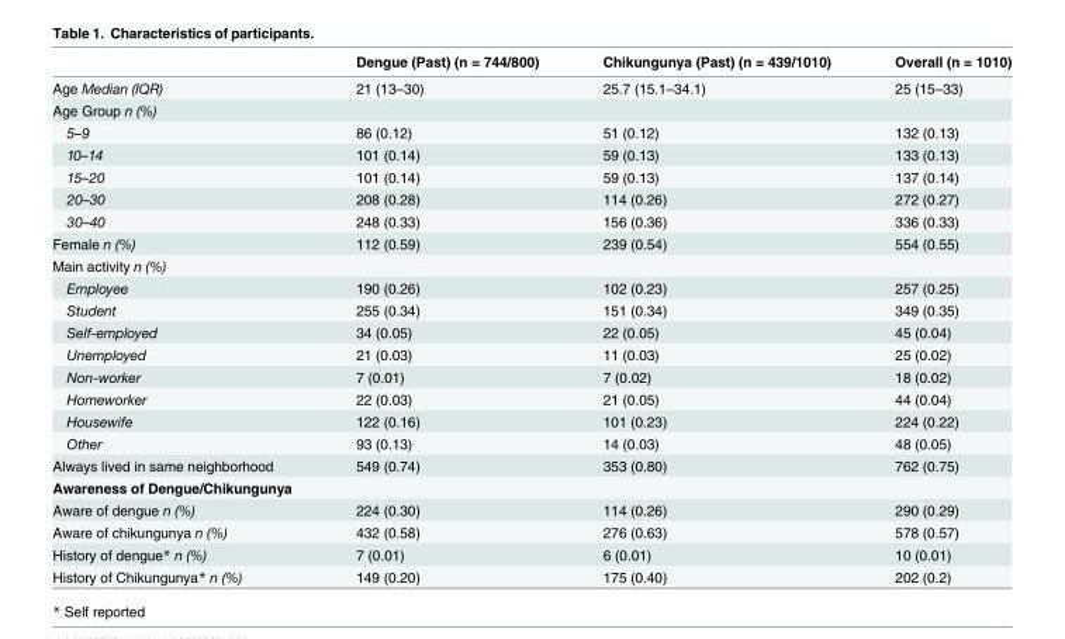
<table><thead><tr><td></td><td>Dengue (Past) (n = 744/800)</td><td>Chikungunya (Past) (n = 439/1010)</td><td>Overall (n = 1010)</td></tr></thead><tbody><tr><td>Age Median (IQR)</td><td>21 (13–30)</td><td>25.7 (15.1–34.1)</td><td>25 (15–33)</td></tr><tr><td colspan="4">Age Group n (%)</td></tr><tr><td>5–9</td><td>86 (0.12)</td><td>51 (0.12)</td><td>132 (0.13)</td></tr><tr><td>10–14</td><td>101 (0.14)</td><td>59 (0.13)</td><td>133 (0.13)</td></tr><tr><td>15–20</td><td>101 (0.14)</td><td>59 (0.13)</td><td>137 (0.14)</td></tr><tr><td>20–30</td><td>208 (0.28)</td><td>114 (0.26)</td><td>272 (0.27)</td></tr><tr><td>30–40</td><td>248 (0.33)</td><td>156 (0.36)</td><td>336 (0.33)</td></tr><tr><td>Female n (%)</td><td>112 (0.59)</td><td>239 (0.54)</td><td>554 (0.55)</td></tr><tr><td colspan="4">Main activity n (%)</td></tr><tr><td>Employee</td><td>190 (0.26)</td><td>102 (0.23)</td><td>257 (0.25)</td></tr><tr><td>Student</td><td>255 (0.34)</td><td>151 (0.34)</td><td>349 (0.35)</td></tr><tr><td>Self-employed</td><td>34 (0.05)</td><td>22 (0.05)</td><td>45 (0.04)</td></tr><tr><td>Unemployed</td><td>21 (0.03)</td><td>11 (0.03)</td><td>25 (0.02)</td></tr><tr><td>Non-worker</td><td>7 (0.01)</td><td>7 (0.02)</td><td>18 (0.02)</td></tr><tr><td>Homeworker</td><td>22 (0.03)</td><td>21 (0.05)</td><td>44 (0.04)</td></tr><tr><td>Housewife</td><td>122 (0.16)</td><td>101 (0.23)</td><td>224 (0.22)</td></tr><tr><td>Other</td><td>93 (0.13)</td><td>14 (0.03)</td><td>48 (0.05)</td></tr><tr><td>Always lived in same neighborhood</td><td>549 (0.74)</td><td>353 (0.80)</td><td>762 (0.75)</td></tr><tr><td colspan="4">Awareness of Dengue/Chikungunya</td></tr><tr><td>Aware of dengue n (%)</td><td>224 (0.30)</td><td>114 (0.26)</td><td>290 (0.29)</td></tr><tr><td>Aware of chikungunya n (%)</td><td>432 (0.58)</td><td>276 (0.63)</td><td>578 (0.57)</td></tr><tr><td>History of dengue* n (%)</td><td>7 (0.01)</td><td>6 (0.01)</td><td>10 (0.01)</td></tr><tr><td>History of Chikungunya* n (%)</td><td>149 (0.20)</td><td>175 (0.40)</td><td>202 (0.2)</td></tr></tbody></table>